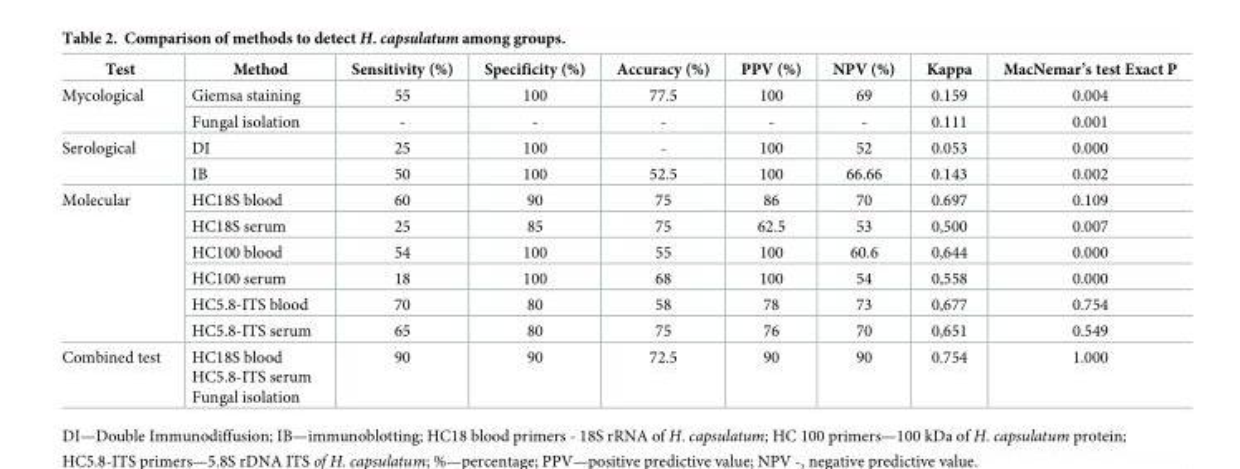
<table><thead><tr><td>Test</td><td>Method</td><td>Sensitivity (%)</td><td>Specificity (%)</td><td>Accuracy (%)</td><td>PPV (%)</td><td>NPV (%)</td><td>Kappa</td><td>MacNemar’s test Exact P</td></tr></thead><tbody><tr><td rowspan="2">Mycological</td><td>Giemsa staining</td><td>55</td><td>100</td><td>77.5</td><td>100</td><td>69</td><td>0.159</td><td>0.004</td></tr><tr><td>Fungal isolation</td><td>-</td><td>-</td><td>-</td><td>-</td><td>-</td><td>0.111</td><td>0.001</td></tr><tr><td rowspan="2">Serological</td><td>DI</td><td>25</td><td>100</td><td>-</td><td>100</td><td>52</td><td>0.053</td><td>0.000</td></tr><tr><td>IB</td><td>50</td><td>100</td><td>52.5</td><td>100</td><td>66.66</td><td>0.143</td><td>0.002</td></tr><tr><td rowspan="6">Molecular</td><td>HC18S blood</td><td>60</td><td>90</td><td>75</td><td>86</td><td>70</td><td>0.697</td><td>0.109</td></tr><tr><td>HC18S serum</td><td>25</td><td>85</td><td>75</td><td>62.5</td><td>53</td><td>0,500</td><td>0.007</td></tr><tr><td>HC100 blood</td><td>54</td><td>100</td><td>55</td><td>100</td><td>60.6</td><td>0,644</td><td>0.000</td></tr><tr><td>HC100 serum</td><td>18</td><td>100</td><td>68</td><td>100</td><td>54</td><td>0,558</td><td>0.000</td></tr><tr><td>HC5.8-ITS blood</td><td>70</td><td>80</td><td>58</td><td>78</td><td>73</td><td>0,677</td><td>0.754</td></tr><tr><td>HC5.8-ITS serum</td><td>65</td><td>80</td><td>75</td><td>76</td><td>70</td><td>0,651</td><td>0.549</td></tr><tr><td>Combined test</td><td>HC18S blood HC5.8-ITS serum Fungal isolation</td><td>90</td><td>90</td><td>72.5</td><td>90</td><td>90</td><td>0.754</td><td>1.000</td></tr></tbody></table>